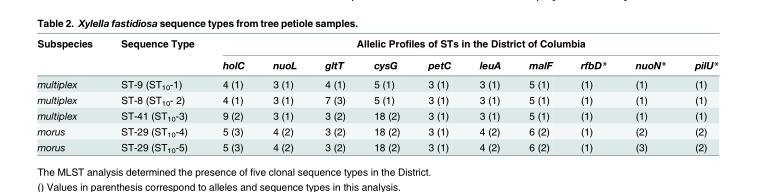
<table><thead><tr><td rowspan="2">Subspecies</td><td rowspan="2">Sequence Type</td><td colspan="10">Allelic Profiles of STs in the District of Columbia</td></tr><tr><td>holC</td><td>nuoL</td><td>gltT</td><td>cysG</td><td>petC</td><td>leuA</td><td>malF</td><td>rfbD*</td><td>nuoN*</td><td>pilU*</td></tr></thead><tbody><tr><td>multiplex</td><td>ST-9 (ST<sub>10</sub>-1)</td><td>4 (1)</td><td>3 (1)</td><td>4 (1)</td><td>5 (1)</td><td>3 (1)</td><td>3 (1)</td><td>5 (1)</td><td>(1)</td><td>(1)</td><td>(1)</td></tr><tr><td>multiplex</td><td>ST-8 (ST<sub>10</sub>- 2)</td><td>4 (1)</td><td>3 (1)</td><td>7 (3)</td><td>5 (1)</td><td>3 (1)</td><td>3 (1)</td><td>5 (1)</td><td>(1)</td><td>(1)</td><td>(1)</td></tr><tr><td>multiplex</td><td>ST-41 (ST<sub>10</sub>-3)</td><td>9 (2)</td><td>3 (1)</td><td>3 (2)</td><td>18 (2)</td><td>3 (1)</td><td>3 (1)</td><td>5 (1)</td><td>(1)</td><td>(1)</td><td>(1)</td></tr><tr><td>morus</td><td>ST-29 (ST<sub>10</sub>-4)</td><td>5 (3)</td><td>4 (2)</td><td>3 (2)</td><td>18 (2)</td><td>3 (1)</td><td>4 (2)</td><td>6 (2)</td><td>(1)</td><td>(2)</td><td>(2)</td></tr><tr><td>morus</td><td>ST-29 (ST<sub>10</sub>-5)</td><td>5 (3)</td><td>4 (2)</td><td>3 (2)</td><td>18 (2)</td><td>3 (1)</td><td>4 (2)</td><td>6 (2)</td><td>(1)</td><td>(3)</td><td>(2)</td></tr></tbody></table>